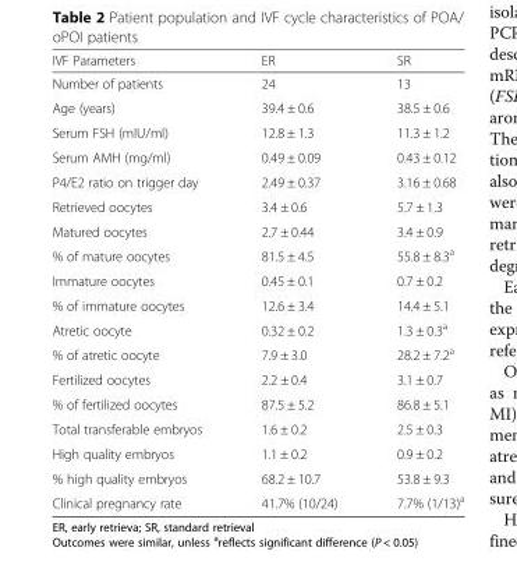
<table><thead><tr><td>IVF Parameters</td><td>ER</td><td>SR</td></tr></thead><tbody><tr><td>Number of patients</td><td>24</td><td>13</td></tr><tr><td>Age (years)</td><td>39.4 ± 0.6</td><td>38.5 ± 0.6</td></tr><tr><td>Serum FSH (mIU/ml)</td><td>12.8 ± 1.3</td><td>11.3 ± 1.2</td></tr><tr><td>Serum AMH (mg/ml)</td><td>0.49 ± 0.09</td><td>0.43 ± 0.12</td></tr><tr><td>P4/E2 ratio on trigger day</td><td>2.49 ± 0.37</td><td>3.16 ± 0.68</td></tr><tr><td>Retrieved oocytes</td><td>3.4 ± 0.6</td><td>5.7 ± 1.3</td></tr><tr><td>Matured oocytes</td><td>2.7 ± 0.44</td><td>3.4 ± 0.9</td></tr><tr><td>% of mature oocytes</td><td>81.5 ± 4.5</td><td>55.8 ± 8.3<sup>a</sup></td></tr><tr><td>Immature oocytes</td><td>0.45 ± 0.1</td><td>0.7 ± 0.2</td></tr><tr><td>% of immature oocytes</td><td>12.6 ± 3.4</td><td>14.4 ± 5.1</td></tr><tr><td>Atretic oocyte</td><td>0.32 ± 0.2</td><td>1.3 ± 0.3<sup>a</sup></td></tr><tr><td>% of atretic oocyte</td><td>7.9 ± 3.0</td><td>28.2 ± 7.2<sup>a</sup></td></tr><tr><td>Fertilized oocytes</td><td>2.2 ± 0.4</td><td>3.1 ± 0.7</td></tr><tr><td>% of fertilized oocytes</td><td>87.5 ± 5.2</td><td>86.8 ± 5.1</td></tr><tr><td>Total transferable embryos</td><td>1.6 ± 0.2</td><td>2.5 ± 0.3</td></tr><tr><td>High quality embryos</td><td>1.1 ± 0.2</td><td>0.9 ± 0.2</td></tr><tr><td>% high quality embryos</td><td>68.2 ± 10.7</td><td>53.8 ± 9.3</td></tr><tr><td>Clinical pregnancy rate</td><td>41.7% (10/24)</td><td>7.7% (1/13)<sup>a</sup></td></tr></tbody></table>